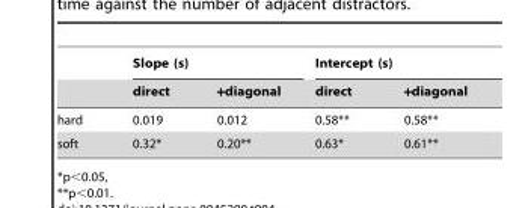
<table><thead><tr><td rowspan="2"></td><td colspan="2">Slope (s)</td><td colspan="2">Intercept (s)</td></tr><tr><td>direct</td><td>+diagonal</td><td>direct</td><td>+diagonal</td></tr></thead><tbody><tr><td>hard</td><td>0.019</td><td>0.012</td><td>0.58**</td><td>0.58**</td></tr><tr><td>soft</td><td>0.32*</td><td>0.20**</td><td>0.63*</td><td>0.61**</td></tr></tbody></table>